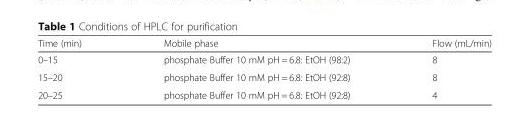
<table><thead><tr><td>Time (min)</td><td>Mobile phase</td><td>Flow (mL/min)</td></tr></thead><tbody><tr><td>0–15</td><td>phosphate Buffer 10 mM pH = 6.8: EtOH (98:2)</td><td>8</td></tr><tr><td>15–20</td><td>phosphate Buffer 10 mM pH = 6.8: EtOH (92:8)</td><td>8</td></tr><tr><td>20–25</td><td>phosphate Buffer 10 mM pH = 6.8: EtOH (92:8)</td><td>4</td></tr></tbody></table>